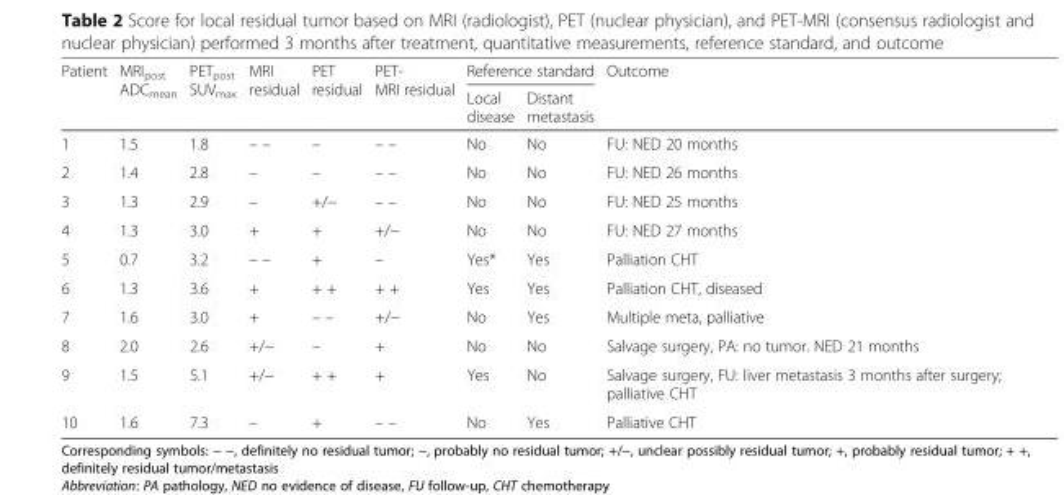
<table><thead><tr><td rowspan="2">Patient</td><td rowspan="2">MRI<sub>post</sub> ADC<sub>mean</sub></td><td rowspan="2">PET<sub>post</sub> SUV<sub>max</sub></td><td rowspan="2">MRI residual</td><td rowspan="2">PET residual</td><td rowspan="2">PET- MRI residual</td><td colspan="2">Reference standard</td><td rowspan="2">Outcome</td></tr><tr><td>Local disease</td><td>Distant metastasis</td></tr></thead><tbody><tr><td>1</td><td>1.5</td><td>1.8</td><td>– –</td><td>–</td><td>– –</td><td>No</td><td>No</td><td>FU: NED 20 months</td></tr><tr><td>2</td><td>1.4</td><td>2.8</td><td>–</td><td>–</td><td>– –</td><td>No</td><td>No</td><td>FU: NED 26 months</td></tr><tr><td>3</td><td>1.3</td><td>2.9</td><td>–</td><td>+/−</td><td>– –</td><td>No</td><td>No</td><td>FU: NED 25 months</td></tr><tr><td>4</td><td>1.3</td><td>3.0</td><td>+</td><td>+</td><td>+/−</td><td>No</td><td>No</td><td>FU: NED 27 months</td></tr><tr><td>5</td><td>0.7</td><td>3.2</td><td>– –</td><td>+</td><td>–</td><td>Yes*</td><td>Yes</td><td>Palliation CHT</td></tr><tr><td>6</td><td>1.3</td><td>3.6</td><td>+</td><td>+ +</td><td>+ +</td><td>Yes</td><td>Yes</td><td>Palliation CHT, diseased</td></tr><tr><td>7</td><td>1.6</td><td>3.0</td><td>+</td><td>– –</td><td>+/−</td><td>No</td><td>Yes</td><td>Multiple meta, palliative</td></tr><tr><td>8</td><td>2.0</td><td>2.6</td><td>+/−</td><td>–</td><td>+</td><td>No</td><td>No</td><td>Salvage surgery, PA: no tumor. NED 21 months</td></tr><tr><td>9</td><td>1.5</td><td>5.1</td><td>+/−</td><td>+ +</td><td>+</td><td>Yes</td><td>No</td><td>Salvage surgery, FU: liver metastasis 3 months after surgery; palliative CHT</td></tr><tr><td>10</td><td>1.6</td><td>7.3</td><td>–</td><td>+</td><td>– –</td><td>No</td><td>Yes</td><td>Palliative CHT</td></tr></tbody></table>